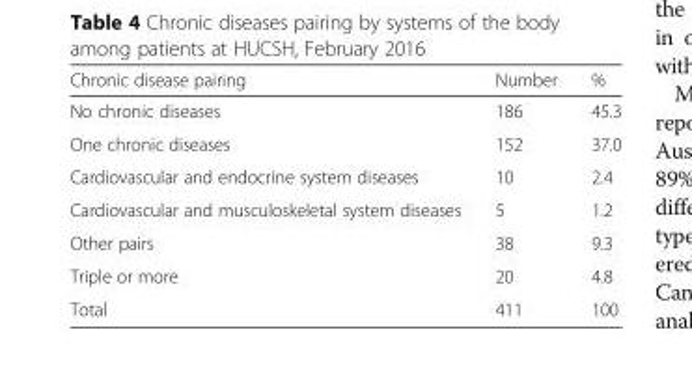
<table><thead><tr><td>Chronic disease pairing</td><td>Number</td><td>%</td></tr></thead><tbody><tr><td>No chronic diseases</td><td>186</td><td>45.3</td></tr><tr><td>One chronic diseases</td><td>152</td><td>37.0</td></tr><tr><td>Cardiovascular and endocrine system diseases</td><td>10</td><td>2.4</td></tr><tr><td>Cardiovascular and musculoskeletal system diseases</td><td>5</td><td>1.2</td></tr><tr><td>Other pairs</td><td>38</td><td>9.3</td></tr><tr><td>Triple or more</td><td>20</td><td>4.8</td></tr><tr><td>Total</td><td>411</td><td>100</td></tr></tbody></table>